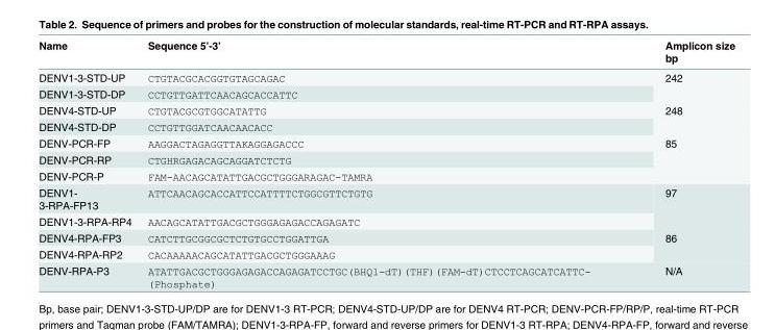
<table><thead><tr><td>Name</td><td>Sequence 5’-3’</td><td>Amplicon size bp</td></tr></thead><tbody><tr><td>DENV1-3-STD-UP</td><td>CTGTACGCACGGTGTAGCAGAC</td><td rowspan="2">242</td></tr><tr><td>DENV1-3-STD-DP</td><td>CCTGTTGATTCAACAGCACCATTC</td></tr><tr><td>DENV4-STD-UP</td><td>CTGTACGCGTGGCATATTG</td><td rowspan="2">248</td></tr><tr><td>DENV4-STD-DP</td><td>CCTGTTGGATCAACAACACC</td></tr><tr><td>DENV-PCR-FP</td><td>AAGGACTAGAGGTTAKAGGAGACCC</td><td rowspan="3">85</td></tr><tr><td>DENV-PCR-RP</td><td>CTGHRGAGACAGCAGGATCTCTG</td></tr><tr><td>DENV-PCR-P</td><td>FAM-AACAGCATATTGACGCTGGGARAGAC-TAMRA</td></tr><tr><td>DENV1- 3-RPA-FP13</td><td>ATTCAACAGCACCATTCCATTTTCTGGCGTTCTGTG</td><td rowspan="2">97</td></tr><tr><td>DENV1-3-RPA-RP4</td><td>AACAGCATATTGACGCTGGGAGAGACCAGAGATC</td></tr><tr><td>DENV4-RPA-FP3</td><td>CATCTTGCGGCGCTCTGTGCCTGGATTGA</td><td rowspan="2">86</td></tr><tr><td>DENV4-RPA-RP2</td><td>CACAAAAACAGCATATTGACGCTGGGAAAG</td></tr><tr><td>DENV-RPA-P3</td><td>ATATTGACGCTGGGAGAGACCAGAGATCCTGC(BHQ1-dT)(THF)(FAM-dT)CTCCTCAGCATCATTC- (Phosphate)</td><td>N/A</td></tr></tbody></table>